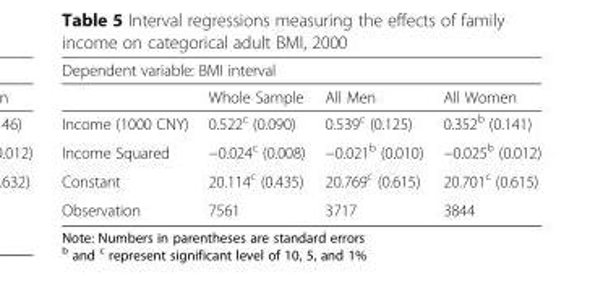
<table><thead><tr><td colspan="4">Dependent variable: BMI interval</td></tr><tr><td></td><td>Whole Sample</td><td>All Men</td><td>All Women</td></tr></thead><tbody><tr><td>Income (1000 CNY)</td><td>0.522<sup>c</sup> (0.090)</td><td>0.539<sup>c</sup> (0.125)</td><td>0.352<sup>b</sup> (0.141)</td></tr><tr><td>Income Squared</td><td>−0.024<sup>c</sup> (0.008)</td><td>−0.021<sup>b</sup> (0.010)</td><td>−0.025<sup>b</sup> (0.012)</td></tr><tr><td>Constant</td><td>20.114<sup>c</sup> (0.435)</td><td>20.769<sup>c</sup> (0.615)</td><td>20.701<sup>c</sup> (0.615)</td></tr><tr><td>Observation</td><td>7561</td><td>3717</td><td>3844</td></tr></tbody></table>